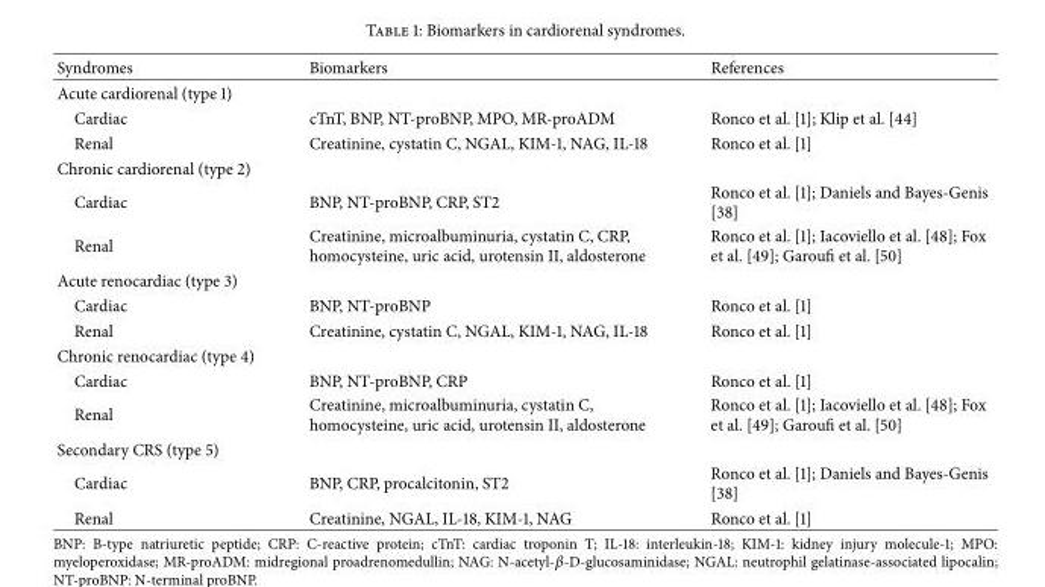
<table><thead><tr><td>Syndromes</td><td>Biomarkers</td><td>References</td></tr></thead><tbody><tr><td colspan="3">Acute cardiorenal (type 1)</td></tr><tr><td>Cardiac</td><td>cTnT, BNP, NT-proBNP, MPO, MR-proADM</td><td>Ronco et al. [1]; Klip et al. [44]</td></tr><tr><td>Renal</td><td>Creatinine, cystatin C, NGAL, KIM-1, NAG, IL-18</td><td>Ronco et al. [1]</td></tr><tr><td colspan="3">Chronic cardiorenal (type 2)</td></tr><tr><td>Cardiac</td><td>BNP, NT-proBNP, CRP, ST2</td><td>Ronco et al. [1]; Daniels and Bayes-Genis [38]</td></tr><tr><td>Renal</td><td>Creatinine, microalbuminuria, cystatin C, CRP, homocysteine, uric acid, urotensin II, aldosterone</td><td>Ronco et al. [1]; Iacoviello et al. [48]; Fox et al. [49]; Garoufi et al. [50]</td></tr><tr><td colspan="3">Acute renocardiac (type 3)</td></tr><tr><td>Cardiac</td><td>BNP, NT-proBNP</td><td>Ronco et al. [1]</td></tr><tr><td>Renal</td><td>Creatinine, cystatin C, NGAL, KIM-1, NAG, IL-18</td><td>Ronco et al. [1]</td></tr><tr><td colspan="3">Chronic renocardiac (type 4)</td></tr><tr><td>Cardiac</td><td>BNP, NT-proBNP, CRP</td><td>Ronco et al. [1]</td></tr><tr><td>Renal</td><td>Creatinine, microalbuminuria, cystatin C, homocysteine, uric acid, urotensin II, aldosterone</td><td>Ronco et al. [1]; Iacoviello et al. [48]; Fox et al. [49]; Garoufi et al. [50]</td></tr><tr><td colspan="3">Secondary CRS (type 5)</td></tr><tr><td>Cardiac</td><td>BNP, CRP, procalcitonin, ST2</td><td>Ronco et al. [1]; Daniels and Bayes-Genis [38]</td></tr><tr><td>Renal</td><td>Creatinine, NGAL, IL-18, KIM-1, NAG</td><td>Ronco et al. [1]</td></tr></tbody></table>